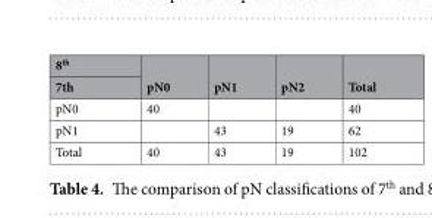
<table><thead><tr><td rowspan="2">8<sup>th</sup> 7th</td><td rowspan="2">pN0</td><td rowspan="2">pN1</td><td rowspan="2">pN2</td><td rowspan="2">Total</td></tr><tr></tr></thead><tbody><tr><td>pN0</td><td>40</td><td></td><td></td><td>40</td></tr><tr><td>pN1</td><td></td><td>43</td><td>19</td><td>62</td></tr><tr><td>Total</td><td>40</td><td>43</td><td>19</td><td>102</td></tr></tbody></table>